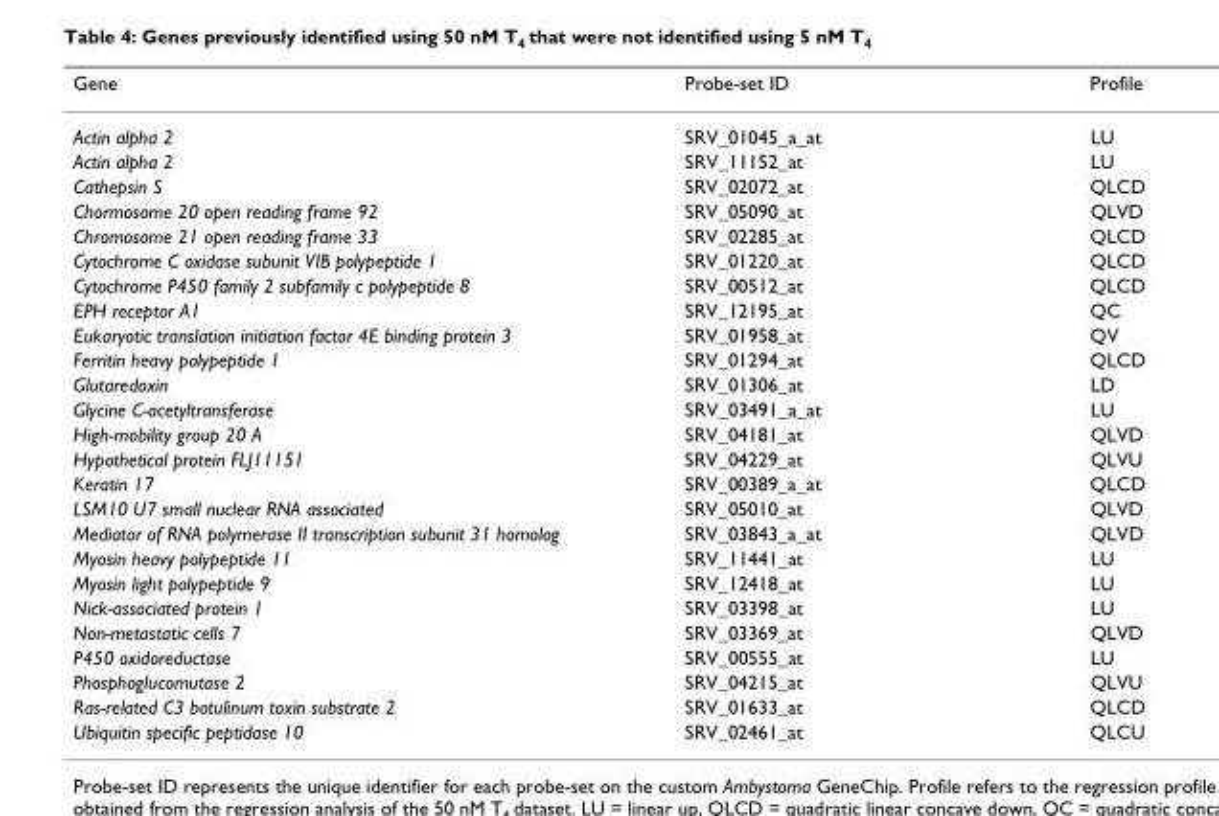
<table><thead><tr><td>Gene</td><td>Probe-set ID</td><td>Profile</td></tr></thead><tbody><tr><td>Actin alpha 2</td><td>SRV_01045_a_at</td><td>LU</td></tr><tr><td>Actin alpha 2</td><td>SRV_11152_at</td><td>LU</td></tr><tr><td>Cathepsin S</td><td>SRV_02072_at</td><td>QLCD</td></tr><tr><td>Chormosome 20 open reading frame 92</td><td>SRV_05090_at</td><td>QLVD</td></tr><tr><td>Chromosome 21 open reading frame 33</td><td>SRV_02285_at</td><td>QLCD</td></tr><tr><td>Cytochrome C oxidase subunit VIB polypeptide 1</td><td>SRV_01220_at</td><td>QLCD</td></tr><tr><td>Cytochrome P450 family 2 subfamily c polypeptide 8</td><td>SRV_00512_at</td><td>QLCD</td></tr><tr><td>EPH receptor A1</td><td>SRV_12195_at</td><td>QC</td></tr><tr><td>Eukaryotic translation initiation factor 4E binding protein 3</td><td>SRV_01958_at</td><td>QV</td></tr><tr><td>Ferritin heavy polypeptide 1</td><td>SRV_01294_at</td><td>QLCD</td></tr><tr><td>Glutaredoxin</td><td>SRV_01306_at</td><td>LD</td></tr><tr><td>Glycine C-acetyltransferase</td><td>SRV_03491_a_at</td><td>LU</td></tr><tr><td>High-mobility group 20 A</td><td>SRV_04181_at</td><td>QLVD</td></tr><tr><td>Hypothetical protein FLJ11151</td><td>SRV_04229_at</td><td>QLVU</td></tr><tr><td>Keratin 17</td><td>SRV_00389_a_at</td><td>QLCD</td></tr><tr><td>LSM10 U7 small nuclear RNA associated</td><td>SRV_05010_at</td><td>QLVD</td></tr><tr><td>Mediator of RNA polymerase II transcription subunit 31 homolog</td><td>SRV_03843_a_at</td><td>QLVD</td></tr><tr><td>Myosin heavy polypeptide 11</td><td>SRV_11441_at</td><td>LU</td></tr><tr><td>Myosin light polypeptide 9</td><td>SRV_12418_at</td><td>LU</td></tr><tr><td>Nick-associated protein 1</td><td>SRV_03398_at</td><td>LU</td></tr><tr><td>Non-metastatic cells 7</td><td>SRV_03369_at</td><td>QLVD</td></tr><tr><td>P450 oxidoreductase</td><td>SRV_00555_at</td><td>LU</td></tr><tr><td>Phosphoglucomutase 2</td><td>SRV_04215_at</td><td>QLVU</td></tr><tr><td>Ras-related C3 botulinum toxin substrate 2</td><td>SRV_01633_at</td><td>QLCD</td></tr><tr><td>Ubiquitin specific peptidase 10</td><td>SRV_02461_at</td><td>QLCU</td></tr></tbody></table>